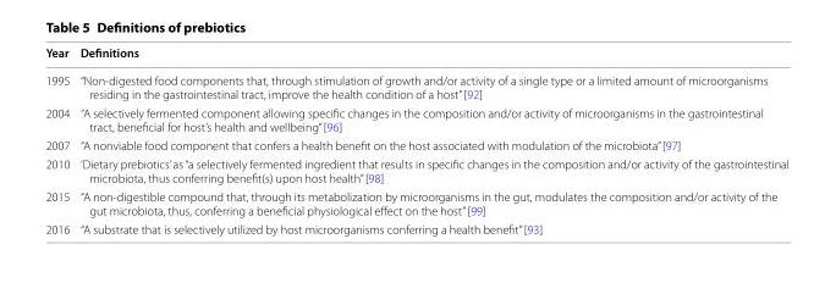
<table><thead><tr><td>Year</td><td>Definitions</td></tr></thead><tbody><tr><td>1995</td><td>“Non-digested food components that, through stimulation of growth and/or activity of a single type or a limited amount of microorganisms residing in the gastrointestinal tract, improve the health condition of a host” [92]</td></tr><tr><td>2004</td><td>“A selectively fermented component allowing specific changes in the composition and/or activity of microorganisms in the gastrointestinal tract, beneficial for host’s health and wellbeing” [96]</td></tr><tr><td>2007</td><td>“A nonviable food component that confers a health benefit on the host associated with modulation of the microbiota” [97]</td></tr><tr><td>2010</td><td>‘Dietary prebiotics’ as “a selectively fermented ingredient that results in specific changes in the composition and/or activity of the gastrointestinal microbiota, thus conferring benefit(s) upon host health” [98]</td></tr><tr><td>2015</td><td>“A non-digestible compound that, through its metabolization by microorganisms in the gut, modulates the composition and/or activity of the gut microbiota, thus, conferring a beneficial physiological effect on the host” [99]</td></tr><tr><td>2016</td><td>“A substrate that is selectively utilized by host microorganisms conferring a health benefit” [93]</td></tr></tbody></table>